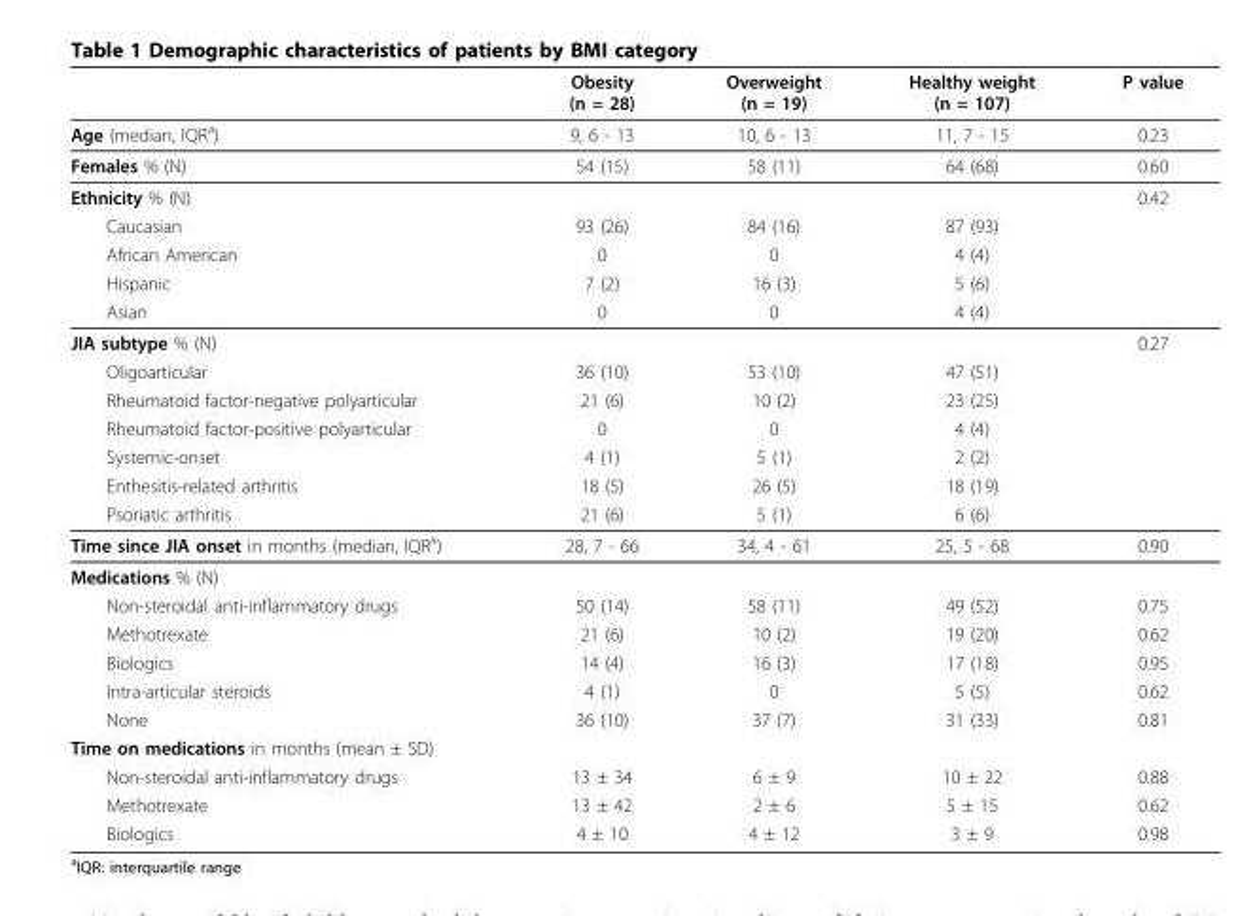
<table><thead><tr><td></td><td>Obesity (n = 28)</td><td>Overweight (n = 19)</td><td>Healthy weight (n = 107)</td><td>P value</td></tr></thead><tbody><tr><td>Age (median, IQRa)</td><td>9, 6 - 13</td><td>10, 6 - 13</td><td>11, 7 - 15</td><td>0.23</td></tr><tr><td>Females % (N)</td><td>54 (15)</td><td>58 (11)</td><td>64 (68)</td><td>0.60</td></tr><tr><td>Ethnicity % (N)</td><td></td><td></td><td></td><td>0.42</td></tr><tr><td>Caucasian</td><td>93 (26)</td><td>84 (16)</td><td>87 (93)</td><td></td></tr><tr><td>African American</td><td>0</td><td>0</td><td>4 (4)</td><td></td></tr><tr><td>Hispanic</td><td>7 (2)</td><td>16 (3)</td><td>5 (6)</td><td></td></tr><tr><td>Asian</td><td>0</td><td>0</td><td>4 (4)</td><td></td></tr><tr><td>JIA subtype % (N)</td><td></td><td></td><td></td><td>0.27</td></tr><tr><td>Oligoarticular</td><td>36 (10)</td><td>53 (10)</td><td>47 (51)</td><td></td></tr><tr><td>Rheumatoid factor-negative polyarticular</td><td>21 (6)</td><td>10 (2)</td><td>23 (25)</td><td></td></tr><tr><td>Rheumatoid factor-positive polyarticular</td><td>0</td><td>0</td><td>4 (4)</td><td></td></tr><tr><td>Systemic-onset</td><td>4 (1)</td><td>5 (1)</td><td>2 (2)</td><td></td></tr><tr><td>Enthesitis-related arthritis</td><td>18 (5)</td><td>26 (5)</td><td>18 (19)</td><td></td></tr><tr><td>Psoriatic arthritis</td><td>21 (6)</td><td>5 (1)</td><td>6 (6)</td><td></td></tr><tr><td>Time since JIA onset in months (median, IQR<sup>a</sup>)</td><td>28, 7 - 66</td><td>34, 4 - 61</td><td>25, 5 - 68</td><td>0.90</td></tr><tr><td colspan="5">Medications % (N)</td></tr><tr><td>Non-steroidal anti-inflammatory drugs</td><td>50 (14)</td><td>58 (11)</td><td>49 (52)</td><td>0.75</td></tr><tr><td>Methotrexate</td><td>21 (6)</td><td>10 (2)</td><td>19 (20)</td><td>0.62</td></tr><tr><td>Biologics</td><td>14 (4)</td><td>16 (3)</td><td>17 (18)</td><td>0.95</td></tr><tr><td>Intra-articular steroids</td><td>4 (1)</td><td>0</td><td>5 (5)</td><td>0.62</td></tr><tr><td>None</td><td>36 (10)</td><td>37 (7)</td><td>31 (33)</td><td>0.81</td></tr><tr><td colspan="5">Time on medications in months (mean ± SD)</td></tr><tr><td>Non-steroidal anti-inflammatory drugs</td><td>13 ± 34</td><td>6 ± 9</td><td>10 ± 22</td><td>0.88</td></tr><tr><td>Methotrexate</td><td>13 ± 42</td><td>2 ± 6</td><td>5 ± 15</td><td>0.62</td></tr><tr><td>Biologics</td><td>4 ± 10</td><td>4 ± 12</td><td>3 ± 9</td><td>0.98</td></tr></tbody></table>